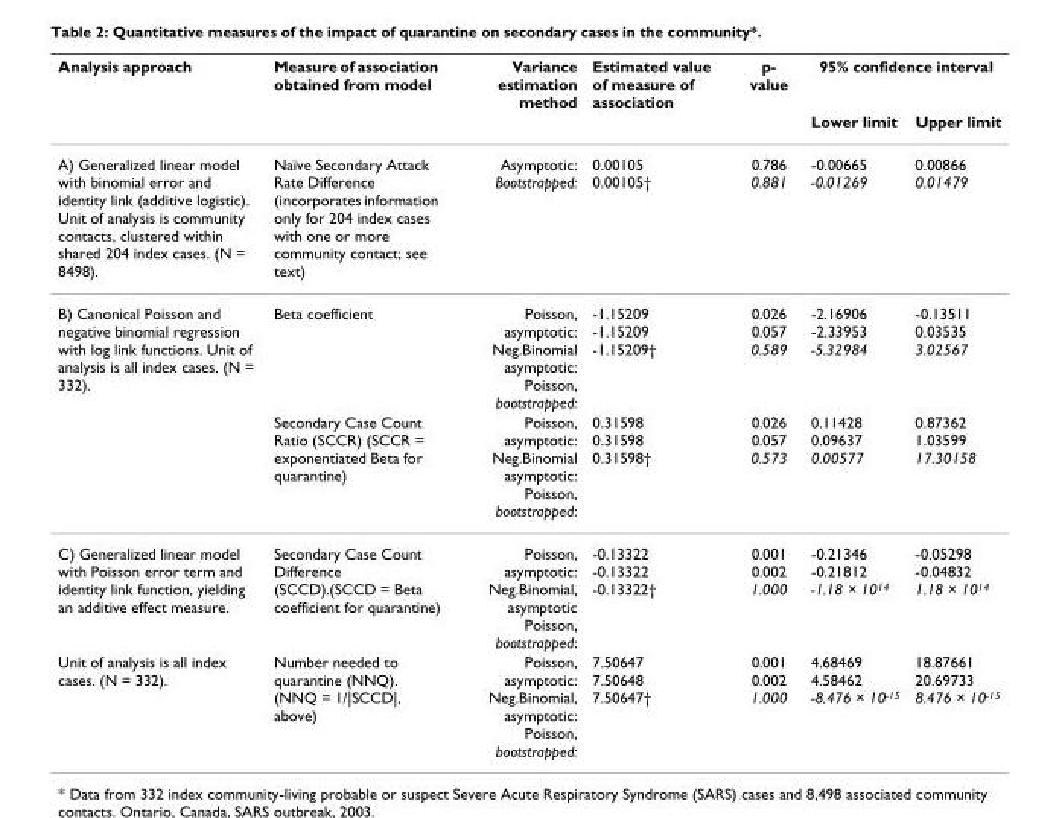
<table><thead><tr><td rowspan="2">Analysis approach</td><td rowspan="2">Measure of association obtained from model</td><td rowspan="2">Variance estimation method</td><td rowspan="2">Estimated value of measure of association</td><td rowspan="2">p- value</td><td colspan="2">95% confidence interval</td></tr><tr><td>Lower limit</td><td>Upper limit</td></tr></thead><tbody><tr><td>A) Generalized linear model with binomial error and identity link (additive logistic). Unit of analysis is community contacts, clustered within shared 204 index cases. (N = 8498).</td><td>Naïve Secondary Attack Rate Difference (incorporates information only for 204 index cases with one or more community contact; see text)</td><td>Asymptotic: Bootstrapped:</td><td>0.00105 0.00105†</td><td>0.786 0.881</td><td>-0.00665 -0.01269</td><td>0.00866 0.01479</td></tr><tr><td rowspan="2">B) Canonical Poisson and negative binomial regression with log link functions. Unit of analysis is all index cases. (N = 332).</td><td>Beta coefficient</td><td>Poisson, asymptotic: Neg.Binomial asymptotic: Poisson, bootstrapped:</td><td>-1.15209 -1.15209 -1.15209†</td><td>0.026 0.057 0.589</td><td>-2.16906 -2.33953 -5.32984</td><td>-0.13511 0.03535 3.02567</td></tr><tr><td>Secondary Case Count Ratio (SCCR) (SCCR = exponentiated Beta for quarantine)</td><td>Poisson, asymptotic: Neg.Binomial asymptotic: Poisson, bootstrapped:</td><td>0.31598 0.31598 0.31598†</td><td>0.026 0.057 0.573</td><td>0.11428 0.09637 0.00577</td><td>0.87362 1.03599 17.30158</td></tr><tr><td>C) Generalized linear model with Poisson error term and identity link function, yielding an additive effect measure.</td><td>Secondary Case Count Difference (SCCD).(SCCD = Beta coefficient for quarantine)</td><td>Poisson, asymptotic: Neg.Binomial, asymptotic Poisson, bootstrapped:</td><td>-0.13322 -0.13322 -0.13322†</td><td>0.001 0.002 1.000</td><td>-0.21346 -0.21812 -1.18 × 10<sup>14</sup></td><td>-0.05298 -0.04832 1.18 × 10<sup>14</sup></td></tr><tr><td>Unit of analysis is all index cases. (N = 332).</td><td>Number needed to quarantine (NNQ). (NNQ = 1/|SCCD|, above)</td><td>Poisson, asymptotic: Neg.Binomial, asymptotic: Poisson, bootstrapped:</td><td>7.50647 7.50648 7.50647†</td><td>0.001 0.002 1.000</td><td>4.68469 4.58462 -8.476 × 10<sup>-15</sup></td><td>18.87661 20.69733 8.476 × 10<sup>-15</sup></td></tr></tbody></table>